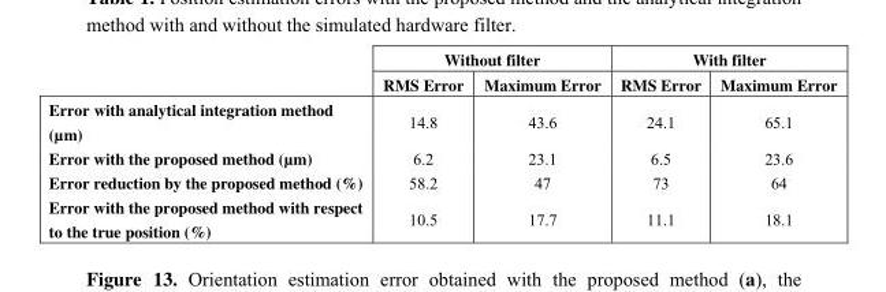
<table><thead><tr><td rowspan="2"></td><td colspan="2">Without filter</td><td colspan="2">With filter</td></tr><tr><td>RMS Error</td><td>Maximum Error</td><td>RMS Error</td><td>Maximum Error</td></tr></thead><tbody><tr><td>Error with analytical integration method (µm)</td><td>14.8</td><td>43.6</td><td>24.1</td><td>65.1</td></tr><tr><td>Error with the proposed method (µm)</td><td>6.2</td><td>23.1</td><td>6.5</td><td>23.6</td></tr><tr><td>Error reduction by the proposed method (%)</td><td>58.2</td><td>47</td><td>73</td><td>64</td></tr><tr><td>Error with the proposed method with respect to the true position (%)</td><td>10.5</td><td>17.7</td><td>11.1</td><td>18.1</td></tr></tbody></table>